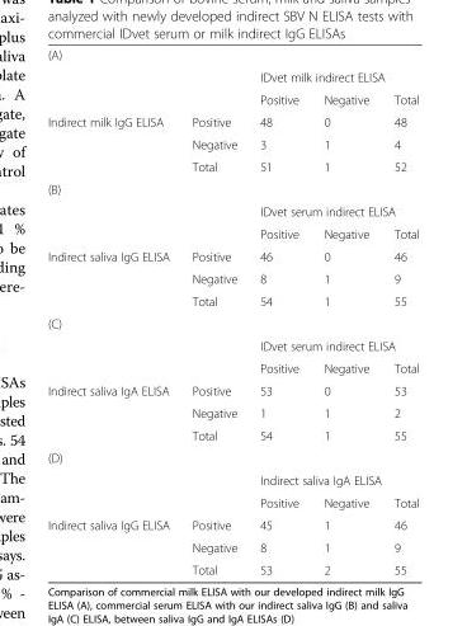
<table><tbody><tr><td colspan="5">(A)</td></tr><tr><td></td><td></td><td colspan="3">IDvet milk indirect ELISA</td></tr><tr><td></td><td></td><td>Positive</td><td>Negative</td><td>Total</td></tr><tr><td rowspan="3">Indirect milk IgG ELISA</td><td>Positive</td><td>48</td><td>0</td><td>48</td></tr><tr><td>Negative</td><td>3</td><td>1</td><td>4</td></tr><tr><td>Total</td><td>51</td><td>1</td><td>52</td></tr><tr><td colspan="5">(B)</td></tr><tr><td></td><td></td><td colspan="3">IDvet serum indirect ELISA</td></tr><tr><td></td><td></td><td>Positive</td><td>Negative</td><td>Total</td></tr><tr><td rowspan="3">Indirect saliva IgG ELISA</td><td>Positive</td><td>46</td><td>0</td><td>46</td></tr><tr><td>Negative</td><td>8</td><td>1</td><td>9</td></tr><tr><td>Total</td><td>54</td><td>1</td><td>55</td></tr><tr><td colspan="5">(C)</td></tr><tr><td></td><td></td><td colspan="3">IDvet serum indirect ELISA</td></tr><tr><td></td><td></td><td>Positive</td><td>Negative</td><td>Total</td></tr><tr><td rowspan="3">Indirect saliva IgA ELISA</td><td>Positive</td><td>53</td><td>0</td><td>53</td></tr><tr><td>Negative</td><td>1</td><td>1</td><td>2</td></tr><tr><td>Total</td><td>54</td><td>1</td><td>55</td></tr><tr><td colspan="5">(D)</td></tr><tr><td></td><td></td><td colspan="3">Indirect saliva IgA ELISA</td></tr><tr><td></td><td></td><td>Positive</td><td>Negative</td><td>Total</td></tr><tr><td rowspan="3">Indirect saliva IgG ELISA</td><td>Positive</td><td>45</td><td>1</td><td>46</td></tr><tr><td>Negative</td><td>8</td><td>1</td><td>9</td></tr><tr><td>Total</td><td>53</td><td>2</td><td>55</td></tr></tbody></table>